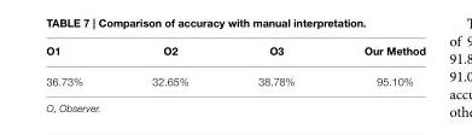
<table><thead><tr><td>O1</td><td>O2</td><td>O3</td><td>Our Method</td></tr></thead><tbody><tr><td>36.73%</td><td>32.65%</td><td>38.78%</td><td>95.10%</td></tr></tbody></table>